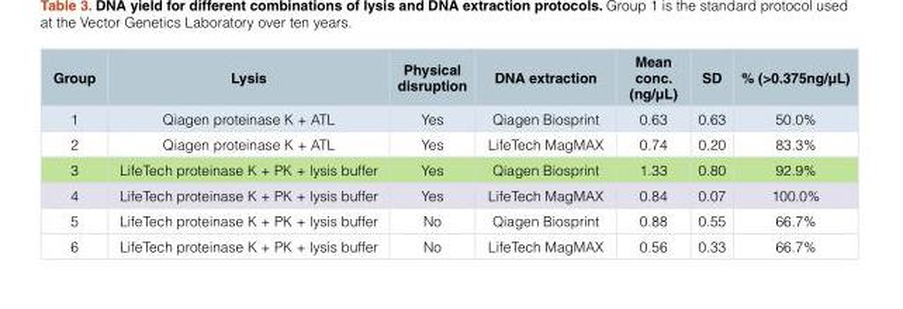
<table><thead><tr><td>Group</td><td>Lysis</td><td>Physical disruption</td><td>DNA extraction</td><td>Mean conc. (ng/µL)</td><td>SD</td><td>% (&gt;0.375ng/µL)</td></tr></thead><tbody><tr><td>1</td><td>Qiagen proteinase K + ATL</td><td>Yes</td><td>Qiagen Biosprint</td><td>0.63</td><td>0.63</td><td>50.0%</td></tr><tr><td>2</td><td>Qiagen proteinase K + ATL</td><td>Yes</td><td>LifeTech MagMAX</td><td>0.74</td><td>0.20</td><td>83.3%</td></tr><tr><td>3</td><td>LifeTech proteinase K + PK + lysis buffer</td><td>Yes</td><td>Qiagen Biosprint</td><td>1.33</td><td>0.80</td><td>92.9%</td></tr><tr><td>4</td><td>LifeTech proteinase K + PK + lysis buffer</td><td>Yes</td><td>LifeTech MagMAX</td><td>0.84</td><td>0.07</td><td>100.0%</td></tr><tr><td>5</td><td>LifeTech proteinase K + PK + lysis buffer</td><td>No</td><td>Qiagen Biosprint</td><td>0.88</td><td>0.55</td><td>66.7%</td></tr><tr><td>6</td><td>LifeTech proteinase K + PK + lysis buffer</td><td>No</td><td>LifeTech MagMAX</td><td>0.56</td><td>0.33</td><td>66.7%</td></tr></tbody></table>